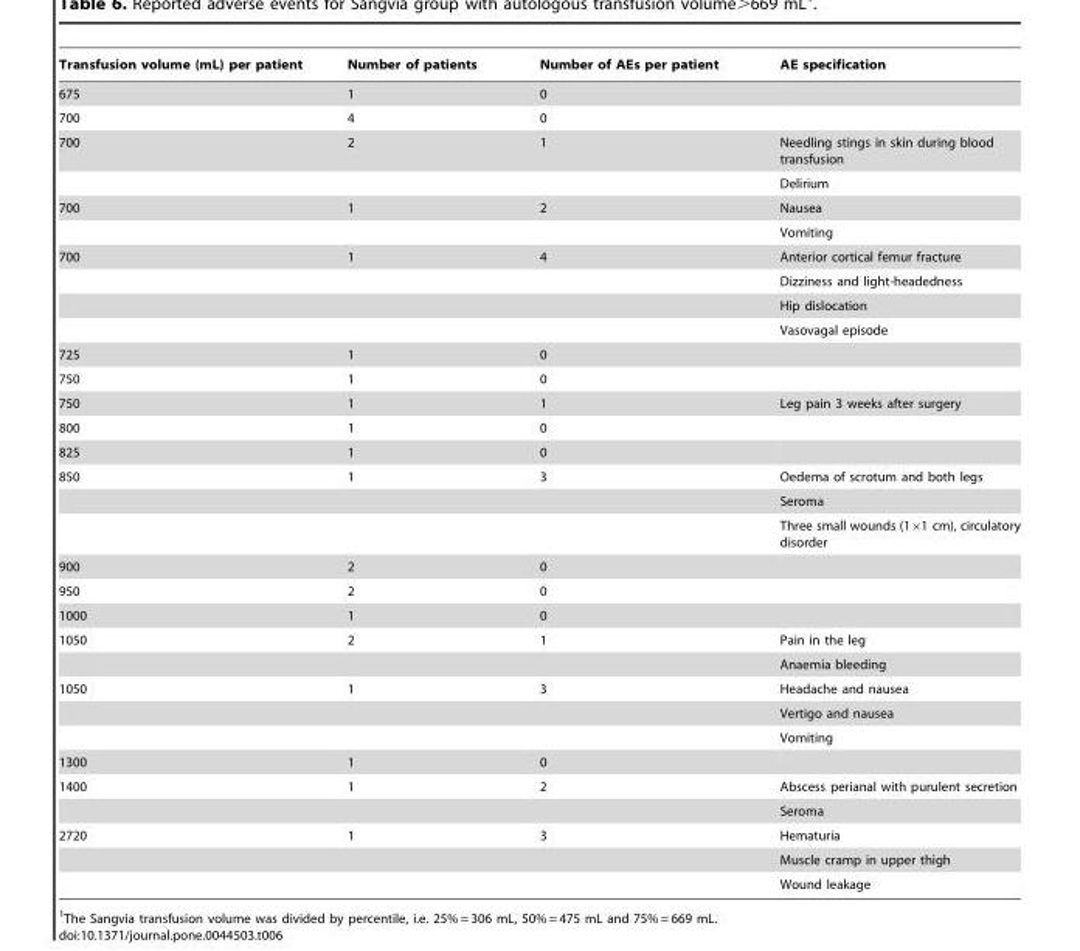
<table><thead><tr><td>Transfusion volume (mL) per patient</td><td>Number of patients</td><td>Number of AEs per patient</td><td>AE specification</td></tr></thead><tbody><tr><td>675</td><td>1</td><td>0</td><td></td></tr><tr><td>700</td><td>4</td><td>0</td><td></td></tr><tr><td rowspan="2">700</td><td>2</td><td>1</td><td>Needling stings in skin during blood transfusion</td></tr><tr><td></td><td></td><td>Delirium</td></tr><tr><td rowspan="2">700</td><td>1</td><td>2</td><td>Nausea</td></tr><tr><td></td><td></td><td>Vomiting</td></tr><tr><td rowspan="4">700</td><td>1</td><td>4</td><td>Anterior cortical femur fracture</td></tr><tr><td></td><td></td><td>Dizziness and light-headedness</td></tr><tr><td></td><td></td><td>Hip dislocation</td></tr><tr><td></td><td></td><td>Vasovagal episode</td></tr><tr><td>725</td><td>1</td><td>0</td><td></td></tr><tr><td>750</td><td>1</td><td>0</td><td></td></tr><tr><td>750</td><td>1</td><td>1</td><td>Leg pain 3 weeks after surgery</td></tr><tr><td>800</td><td>1</td><td>0</td><td></td></tr><tr><td>825</td><td>1</td><td>0</td><td></td></tr><tr><td rowspan="3">850</td><td>1</td><td>3</td><td>Oedema of scrotum and both legs</td></tr><tr><td></td><td></td><td>Seroma</td></tr><tr><td></td><td></td><td>Three small wounds (1×1 cm), circulatory disorder</td></tr><tr><td>900</td><td>2</td><td>0</td><td></td></tr><tr><td>950</td><td>2</td><td>0</td><td></td></tr><tr><td>1000</td><td>1</td><td>0</td><td></td></tr><tr><td rowspan="2">1050</td><td>2</td><td>1</td><td>Pain in the leg</td></tr><tr><td></td><td></td><td>Anaemia bleeding</td></tr><tr><td rowspan="3">1050</td><td>1</td><td>3</td><td>Headache and nausea</td></tr><tr><td></td><td></td><td>Vertigo and nausea</td></tr><tr><td></td><td></td><td>Vomiting</td></tr><tr><td>1300</td><td>1</td><td>0</td><td></td></tr><tr><td rowspan="2">1400</td><td>1</td><td>2</td><td>Abscess perianal with purulent secretion</td></tr><tr><td></td><td></td><td>Seroma</td></tr><tr><td rowspan="3">2720</td><td>1</td><td>3</td><td>Hematuria</td></tr><tr><td></td><td></td><td>Muscle cramp in upper thigh</td></tr><tr><td></td><td></td><td>Wound leakage</td></tr></tbody></table>